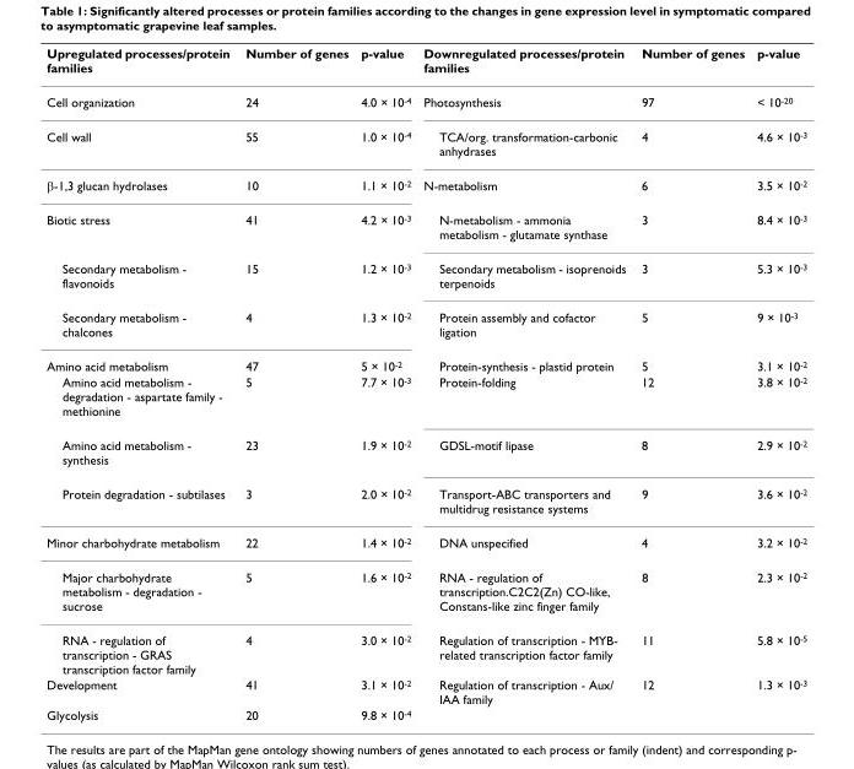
<table><thead><tr><td>Upregulated processes/protein families</td><td>Number of genes</td><td>p-value</td><td>Downregulated processes/protein families</td><td>Number of genes</td><td>p-value</td></tr></thead><tbody><tr><td>Cell organization</td><td>24</td><td>4.0 × 10<sup>-4</sup></td><td>Photosynthesis</td><td>97</td><td>&lt; 10<sup>-20</sup></td></tr><tr><td>Cell wall</td><td>55</td><td>1.0 × 10<sup>-4</sup></td><td>TCA/org. transformation-carbonic anhydrases</td><td>4</td><td>4.6 × 10<sup>-3</sup></td></tr><tr><td>β-1,3 glucan hydrolases</td><td>10</td><td>1.1 × 10<sup>-2</sup></td><td>N-metabolism</td><td>6</td><td>3.5 × 10<sup>-2</sup></td></tr><tr><td>Biotic stress</td><td>41</td><td>4.2 × 10<sup>-3</sup></td><td>N-metabolism - ammonia metabolism - glutamate synthase</td><td>3</td><td>8.4 × 10<sup>-3</sup></td></tr><tr><td>Secondary metabolism - flavonoids</td><td>15</td><td>1.2 × 10<sup>-3</sup></td><td>Secondary metabolism - isoprenoids terpenoids</td><td>3</td><td>5.3 × 10<sup>-3</sup></td></tr><tr><td>Secondary metabolism - chalcones</td><td>4</td><td>1.3 × 10<sup>-2</sup></td><td>Protein assembly and cofactor ligation</td><td>5</td><td>9 × 10<sup>-3</sup></td></tr><tr><td>Amino acid metabolism</td><td>47</td><td>5 × 10<sup>-2</sup></td><td>Protein-synthesis - plastid protein</td><td>5</td><td>3.1 × 10<sup>-2</sup></td></tr><tr><td>Amino acid metabolism - degradation - aspartate family - methionine</td><td>5</td><td>7.7 × 10<sup>-3</sup></td><td>Protein-folding</td><td>12</td><td>3.8 × 10<sup>-2</sup></td></tr><tr><td>Amino acid metabolism - synthesis</td><td>23</td><td>1.9 × 10<sup>-2</sup></td><td>GDSL-motif lipase</td><td>8</td><td>2.9 × 10<sup>-2</sup></td></tr><tr><td>Protein degradation - subtilases</td><td>3</td><td>2.0 × 10<sup>-2</sup></td><td>Transport-ABC transporters and multidrug resistance systems</td><td>9</td><td>3.6 × 10<sup>-2</sup></td></tr><tr><td>Minor charbohydrate metabolism</td><td>22</td><td>1.4 × 10<sup>-2</sup></td><td>DNA unspecified</td><td>4</td><td>3.2 × 10<sup>-2</sup></td></tr><tr><td>Major charbohydrate metabolism - degradation - sucrose</td><td>5</td><td>1.6 × 10<sup>-2</sup></td><td>RNA - regulation of transcription.C2C2(Zn) CO-like, Constans-like zinc finger family</td><td>8</td><td>2.3 × 10<sup>-2</sup></td></tr><tr><td>RNA - regulation of transcription - GRAS transcription factor family</td><td>4</td><td>3.0 × 10<sup>-2</sup></td><td>Regulation of transcription - MYB- related transcription factor family</td><td>11</td><td>5.8 × 10<sup>-5</sup></td></tr><tr><td>Development</td><td>41</td><td>3.1 × 10<sup>-2</sup></td><td>Regulation of transcription - Aux/ IAA family</td><td>12</td><td>1.3 × 10<sup>-3</sup></td></tr><tr><td>Glycolysis</td><td>20</td><td>9.8 × 10<sup>-4</sup></td><td></td><td></td><td></td></tr></tbody></table>